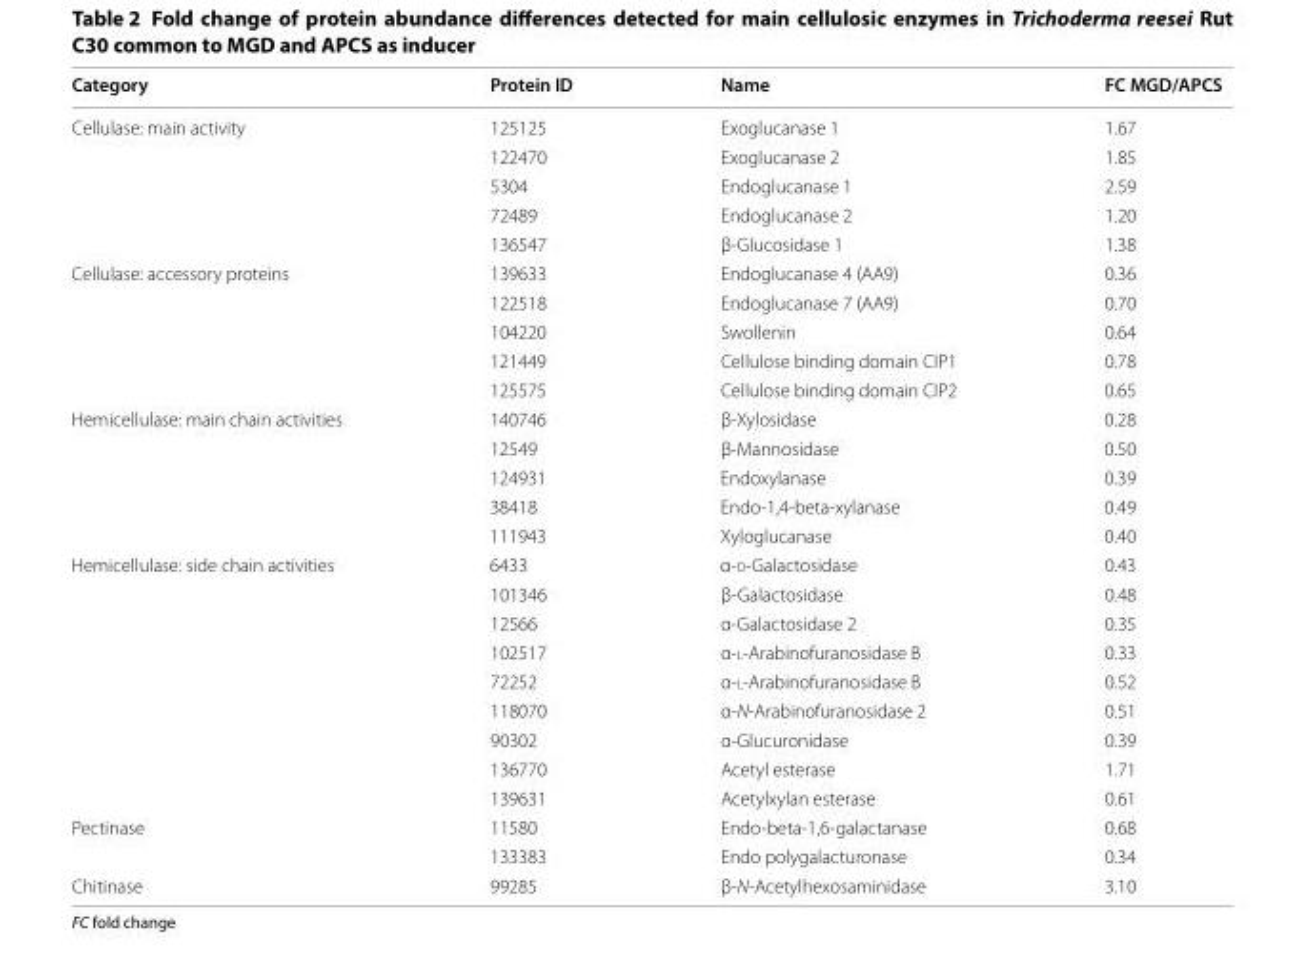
<table><thead><tr><td>Category</td><td>Protein ID</td><td>Name</td><td>FC MGD/APCS</td></tr></thead><tbody><tr><td rowspan="5">Cellulase: main activity</td><td>125125</td><td>Exoglucanase 1</td><td>1.67</td></tr><tr><td>122470</td><td>Exoglucanase 2</td><td>1.85</td></tr><tr><td>5304</td><td>Endoglucanase 1</td><td>2.59</td></tr><tr><td>72489</td><td>Endoglucanase 2</td><td>1.20</td></tr><tr><td>136547</td><td>β‑Glucosidase 1</td><td>1.38</td></tr><tr><td rowspan="5">Cellulase: accessory proteins</td><td>139633</td><td>Endoglucanase 4 (AA9)</td><td>0.36</td></tr><tr><td>122518</td><td>Endoglucanase 7 (AA9)</td><td>0.70</td></tr><tr><td>104220</td><td>Swollenin</td><td>0.64</td></tr><tr><td>121449</td><td>Cellulose binding domain CIP1</td><td>0.78</td></tr><tr><td>125575</td><td>Cellulose binding domain CIP2</td><td>0.65</td></tr><tr><td rowspan="5">Hemicellulase: main chain activities</td><td>140746</td><td>β‑Xylosidase</td><td>0.28</td></tr><tr><td>12549</td><td>β‑Mannosidase</td><td>0.50</td></tr><tr><td>124931</td><td>Endoxylanase</td><td>0.39</td></tr><tr><td>38418</td><td>Endo‑1,4‑beta‑xylanase</td><td>0.49</td></tr><tr><td>111943</td><td>Xyloglucanase</td><td>0.40</td></tr><tr><td rowspan="9">Hemicellulase: side chain activities</td><td>6433</td><td>α‑d‑Galactosidase</td><td>0.43</td></tr><tr><td>101346</td><td>β‑Galactosidase</td><td>0.48</td></tr><tr><td>12566</td><td>α‑Galactosidase 2</td><td>0.35</td></tr><tr><td>102517</td><td>α‑l‑Arabinofuranosidase B</td><td>0.33</td></tr><tr><td>72252</td><td>α‑l‑Arabinofuranosidase B</td><td>0.52</td></tr><tr><td>118070</td><td>α‑N‑Arabinofuranosidase 2</td><td>0.51</td></tr><tr><td>90302</td><td>α‑Glucuronidase</td><td>0.39</td></tr><tr><td>136770</td><td>Acetyl esterase</td><td>1.71</td></tr><tr><td>139631</td><td>Acetylxylan esterase</td><td>0.61</td></tr><tr><td rowspan="2">Pectinase</td><td>11580</td><td>Endo‑beta‑1,6‑galactanase</td><td>0.68</td></tr><tr><td>133383</td><td>Endo polygalacturonase</td><td>0.34</td></tr><tr><td>Chitinase</td><td>99285</td><td>β‑N‑Acetylhexosaminidase</td><td>3.10</td></tr></tbody></table>